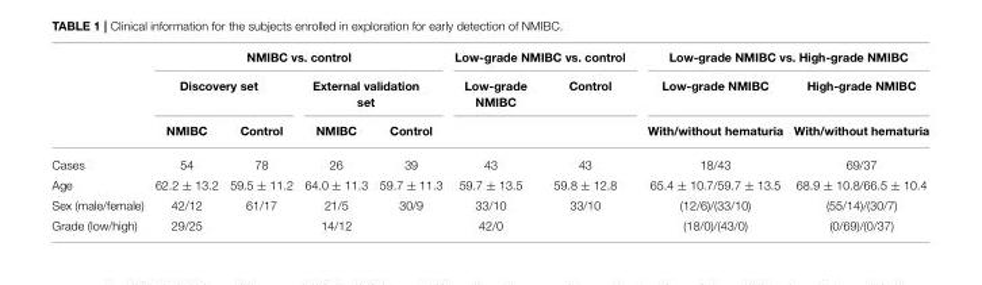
<table><thead><tr><td rowspan="3"></td><td colspan="4">NMIBC vs. control</td><td colspan="2">Low-grade NMIBC vs. control</td><td colspan="2">Low-grade NMIBC vs. High-grade NMIBC</td></tr><tr><td colspan="2">Discovery set</td><td colspan="2">External validation set</td><td rowspan="2">Low-grade NMIBC</td><td rowspan="2">Control</td><td rowspan="2">Low-grade NMIBC With/without hematuria</td><td rowspan="2">High-grade NMIBC With/without hematuria</td></tr><tr><td>NMIBC</td><td>Control</td><td>NMIBC</td><td>Control</td></tr></thead><tbody><tr><td>Cases</td><td>54</td><td>78</td><td>26</td><td>39</td><td>43</td><td>43</td><td>18/43</td><td>69/37</td></tr><tr><td>Age</td><td>62.2 ± 13.2</td><td>59.5 ± 11.2</td><td>64.0 ± 11.3</td><td>59.7 ± 11.3</td><td>59.7 ± 13.5</td><td>59.8 ± 12.8</td><td>65.4 ± 10.7/59.7 ± 13.5</td><td>68.9 ± 10.8/66.5 ± 10.4</td></tr><tr><td>Sex (male/female)</td><td>42/12</td><td>61/17</td><td>21/5</td><td>30/9</td><td>33/10</td><td>33/10</td><td>(12/6)/(33/10)</td><td>(55/14)/(30/7)</td></tr><tr><td>Grade (low/high)</td><td>29/25</td><td></td><td>14/12</td><td></td><td>42/0</td><td></td><td>(18/0)/(43/0)</td><td>(0/69)/(0/37)</td></tr></tbody></table>